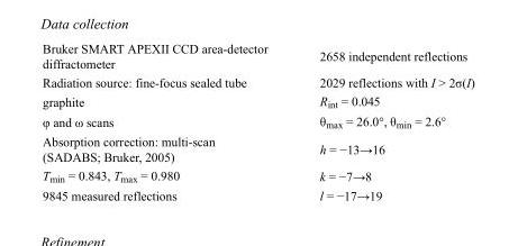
<table><tbody><tr><td>Bruker SMART APEXII CCD area-detector diffractometer</td><td>2658 independent reflections</td></tr><tr><td>Radiation source: fine-focus sealed tube</td><td>2029 reflections with I &gt; 2σ(I)</td></tr><tr><td>graphite</td><td>R<sub>int</sub> = 0.045</td></tr><tr><td>φ and ω scans</td><td>θ<sub>max</sub> = 26.0°, θ<sub>min</sub> = 2.6°</td></tr><tr><td>Absorption correction: multi-scan (SADABS; Bruker, 2005)</td><td>h = −13→16</td></tr><tr><td>T<sub>min</sub> = 0.843, T<sub>max</sub> = 0.980</td><td>k = −7→8</td></tr><tr><td>9845 measured reflections</td><td>l = −17→19</td></tr></tbody></table>